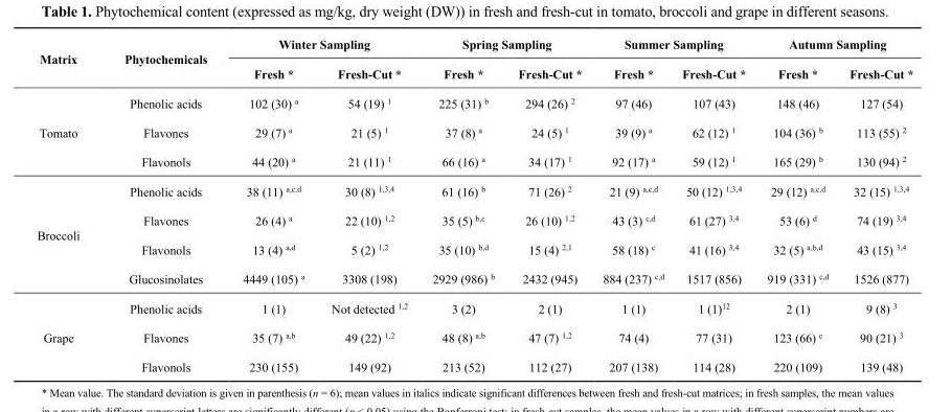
<table><thead><tr><td rowspan="2">Matrix</td><td rowspan="2">Phytochemicals</td><td colspan="2">Winter Sampling</td><td colspan="2">Spring Sampling</td><td colspan="2">Summer Sampling</td><td colspan="2">Autumn Sampling</td></tr><tr><td>Fresh *</td><td>Fresh-Cut *</td><td>Fresh *</td><td>Fresh-Cut *</td><td>Fresh *</td><td>Fresh-Cut *</td><td>Fresh *</td><td>Fresh-Cut *</td></tr></thead><tbody><tr><td rowspan="3">Tomato</td><td>Phenolic acids</td><td>102 (30) <sup>a</sup></td><td>54 (19) <sup>1</sup></td><td>225 (31) <sup>b</sup></td><td>294 (26) <sup>2</sup></td><td>97 (46)</td><td>107 (43)</td><td>148 (46)</td><td>127 (54)</td></tr><tr><td>Flavones</td><td>29 (7) <sup>a</sup></td><td>21 (5) <sup>1</sup></td><td>37 (8) <sup>a</sup></td><td>24 (5) <sup>1</sup></td><td>39 (9) <sup>a</sup></td><td>62 (12) <sup>1</sup></td><td>104 (36) <sup>b</sup></td><td>113 (55) <sup>2</sup></td></tr><tr><td>Flavonols</td><td>44 (20) <sup>a</sup></td><td>21 (11) <sup>1</sup></td><td>66 (16) <sup>a</sup></td><td>34 (17) <sup>1</sup></td><td>92 (17) <sup>a</sup></td><td>59 (12) <sup>1</sup></td><td>165 (29) <sup>b</sup></td><td>130 (94) <sup>2</sup></td></tr><tr><td rowspan="4">Broccoli</td><td>Phenolic acids</td><td>38 (11) <sup>a,c,d</sup></td><td>30 (8) <sup>1,3,4</sup></td><td>61 (16) <sup>b</sup></td><td>71 (26) <sup>2</sup></td><td>21 (9) <sup>a,c,d</sup></td><td>50 (12) <sup>1,3,4</sup></td><td>29 (12) <sup>a,c,d</sup></td><td>32 (15) <sup>1,3,4</sup></td></tr><tr><td>Flavones</td><td>26 (4) <sup>a</sup></td><td>22 (10) <sup>1,2</sup></td><td>35 (5) <sup>b,c</sup></td><td>26 (10) <sup>1,2</sup></td><td>43 (3) <sup>c,d</sup></td><td>61 (27) <sup>3,4</sup></td><td>53 (6) <sup>d</sup></td><td>74 (19) <sup>3,4</sup></td></tr><tr><td>Flavonols</td><td>13 (4) <sup>a,d</sup></td><td>5 (2) <sup>1,2</sup></td><td>35 (10) <sup>b,d</sup></td><td>15 (4) <sup>2,1</sup></td><td>58 (18) <sup>c</sup></td><td>41 (16) <sup>3,4</sup></td><td>32 (5) <sup>a,b,d</sup></td><td>43 (15) <sup>3,4</sup></td></tr><tr><td>Glucosinolates</td><td>4449 (105) <sup>a</sup></td><td>3308 (198)</td><td>2929 (986) <sup>b</sup></td><td>2432 (945)</td><td>884 (237) <sup>c,d</sup></td><td>1517 (856)</td><td>919 (331) <sup>c,d</sup></td><td>1526 (877)</td></tr><tr><td rowspan="3">Grape</td><td>Phenolic acids</td><td>1 (1)</td><td>Not detected <sup>1,2</sup></td><td>3 (2)</td><td>2 (1)</td><td>1 (1)</td><td>1 (1)<sup>12</sup></td><td>2 (1)</td><td>9 (8) <sup>3</sup></td></tr><tr><td>Flavones</td><td>35 (7) <sup>a,b</sup></td><td>49 (22) <sup>1,2</sup></td><td>48 (8) <sup>a,b</sup></td><td>47 (7) <sup>1,2</sup></td><td>74 (4)</td><td>77 (31)</td><td>123 (66) <sup>c</sup></td><td>90 (21) <sup>3</sup></td></tr><tr><td>Flavonols</td><td>230 (155)</td><td>149 (92)</td><td>213 (52)</td><td>112 (27)</td><td>207 (138)</td><td>114 (28)</td><td>220 (109)</td><td>139 (48)</td></tr></tbody></table>